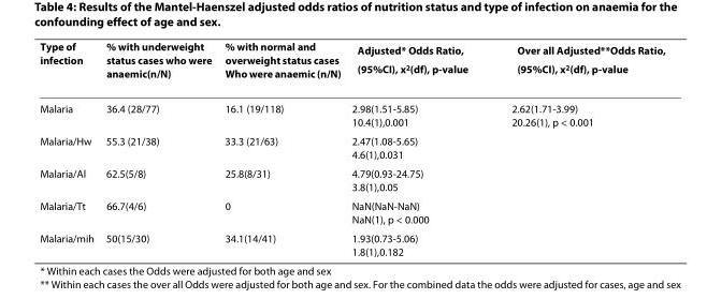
<table><thead><tr><td>Type of infection</td><td>% with underweight status cases who were anaemic(n/N)</td><td>% with normal and overweight status cases Who were anaemic (n/N)</td><td>Adjusted* Odds Ratio, (95%CI), x<sup>2</sup>(df), p-value</td><td>Over all Adjusted**Odds Ratio, (95%CI), x<sup>2</sup>(df), p-value</td></tr></thead><tbody><tr><td>Malaria</td><td>36.4 (28/77)</td><td>16.1 (19/118)</td><td>2.98(1.51-5.85) 10.4(1),0.001</td><td>2.62(1.71-3.99) 20.26(1), p &lt; 0.001</td></tr><tr><td>Malaria/Hw</td><td>55.3 (21/38)</td><td>33.3 (21/63)</td><td>2.47(1.08-5.65) 4.6(1),0.031</td><td></td></tr><tr><td>Malaria/Al</td><td>62.5(5/8)</td><td>25.8(8/31)</td><td>4.79(0.93-24.75) 3.8(1),0.05</td><td></td></tr><tr><td>Malaria/Tt</td><td>66.7(4/6)</td><td>0</td><td>NaN(NaN-NaN) NaN(1), p &lt; 0.000</td><td></td></tr><tr><td>Malaria/mih</td><td>50(15/30)</td><td>34.1(14/41)</td><td>1.93(0.73-5.06) 1.8(1),0.182</td><td></td></tr></tbody></table>